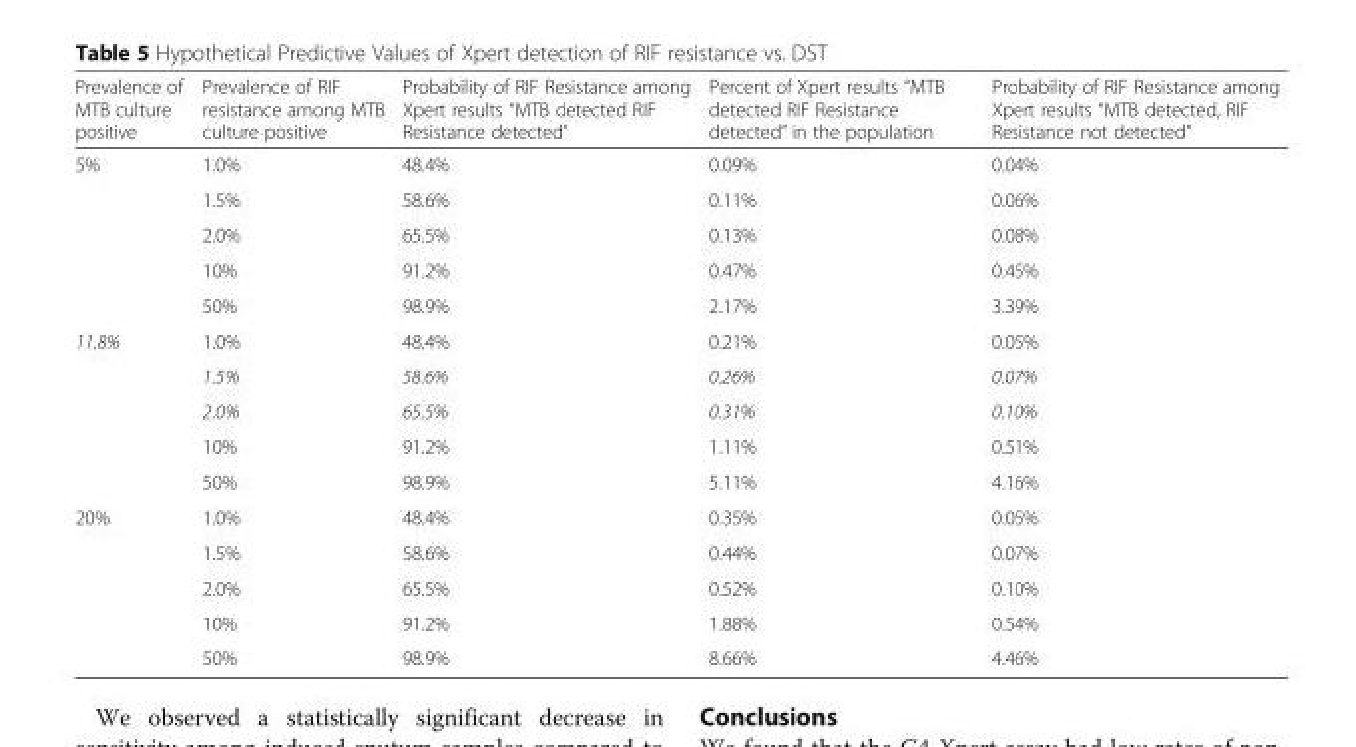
<table><thead><tr><td>Prevalence of MTB culture positive</td><td>Prevalence of RIF resistance among MTB culture positive</td><td>Probability of RIF Resistance among Xpert results “MTB detected RIF Resistance detected”</td><td>Percent of Xpert results “MTB detected RIF Resistance detected” in the population</td><td>Probability of RIF Resistance among Xpert results “MTB detected, RIF Resistance not detected”</td></tr></thead><tbody><tr><td rowspan="5">5%</td><td>1.0%</td><td>48.4%</td><td>0.09%</td><td>0.04%</td></tr><tr><td>1.5%</td><td>58.6%</td><td>0.11%</td><td>0.06%</td></tr><tr><td>2.0%</td><td>65.5%</td><td>0.13%</td><td>0.08%</td></tr><tr><td>10%</td><td>91.2%</td><td>0.47%</td><td>0.45%</td></tr><tr><td>50%</td><td>98.9%</td><td>2.17%</td><td>3.39%</td></tr><tr><td rowspan="5">11.8%</td><td>1.0%</td><td>48.4%</td><td>0.21%</td><td>0.05%</td></tr><tr><td>1.5%</td><td>58.6%</td><td>0.26%</td><td>0.07%</td></tr><tr><td>2.0%</td><td>65.5%</td><td>0.31%</td><td>0.10%</td></tr><tr><td>10%</td><td>91.2%</td><td>1.11%</td><td>0.51%</td></tr><tr><td>50%</td><td>98.9%</td><td>5.11%</td><td>4.16%</td></tr><tr><td rowspan="5">20%</td><td>1.0%</td><td>48.4%</td><td>0.35%</td><td>0.05%</td></tr><tr><td>1.5%</td><td>58.6%</td><td>0.44%</td><td>0.07%</td></tr><tr><td>2.0%</td><td>65.5%</td><td>0.52%</td><td>0.10%</td></tr><tr><td>10%</td><td>91.2%</td><td>1.88%</td><td>0.54%</td></tr><tr><td>50%</td><td>98.9%</td><td>8.66%</td><td>4.46%</td></tr></tbody></table>